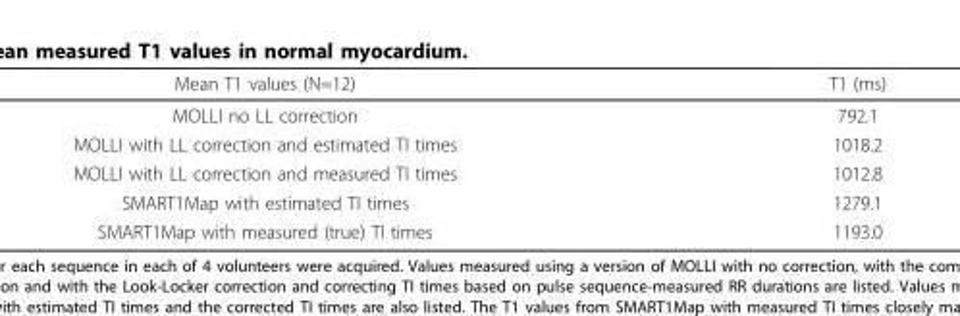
<table><thead><tr><td>Mean T1 values (N=12)</td><td>T1 (ms)</td></tr></thead><tbody><tr><td>MOLLI no LL correction</td><td>792.1</td></tr><tr><td>MOLLI with LL correction and estimated TI times</td><td>1018.2</td></tr><tr><td>MOLLI with LL correction and measured TI times</td><td>1012.8</td></tr><tr><td>SMART1Map with estimated TI times</td><td>1279.1</td></tr><tr><td>SMART1Map with measured (true) TI times</td><td>1193.0</td></tr></tbody></table>